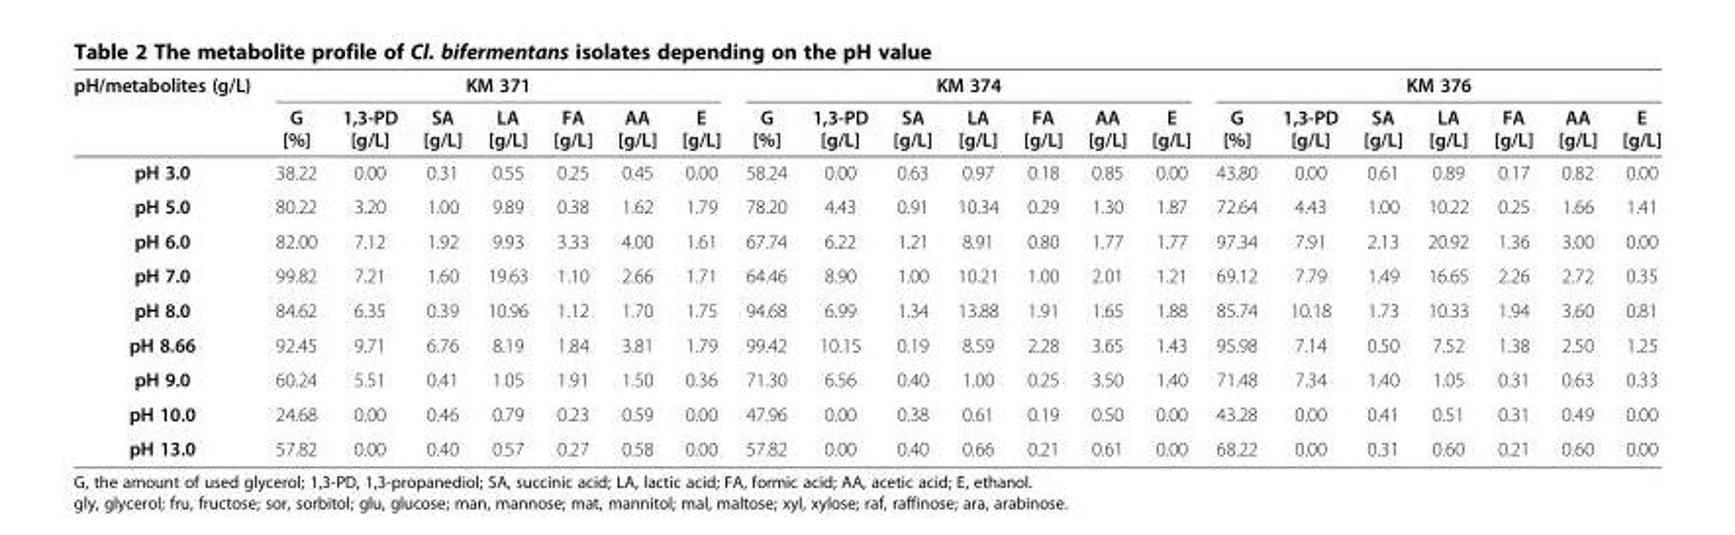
<table><thead><tr><td rowspan="2">pH/metabolites (g/L)</td><td colspan="7">KM 371</td><td colspan="7">KM 374</td><td colspan="7">KM 376</td></tr><tr><td>G [%]</td><td>1,3-PD [g/L]</td><td>SA [g/L]</td><td>LA [g/L]</td><td>FA [g/L]</td><td>AA [g/L]</td><td>E [g/L]</td><td>G [%]</td><td>1,3-PD [g/L]</td><td>SA [g/L]</td><td>LA [g/L]</td><td>FA [g/L]</td><td>AA [g/L]</td><td>E [g/L]</td><td>G [%]</td><td>1,3-PD [g/L]</td><td>SA [g/L]</td><td>LA [g/L]</td><td>FA [g/L]</td><td>AA [g/L]</td><td>E [g/L]</td></tr></thead><tbody><tr><td>pH 3.0</td><td>38.22</td><td>0.00</td><td>0.31</td><td>0.55</td><td>0.25</td><td>0.45</td><td>0.00</td><td>58.24</td><td>0.00</td><td>0.63</td><td>0.97</td><td>0.18</td><td>0.85</td><td>0.00</td><td>43.80</td><td>0.00</td><td>0.61</td><td>0.89</td><td>0.17</td><td>0.82</td><td>0.00</td></tr><tr><td>pH 5.0</td><td>80.22</td><td>3.20</td><td>1.00</td><td>9.89</td><td>0.38</td><td>1.62</td><td>1.79</td><td>78.20</td><td>4.43</td><td>0.91</td><td>10.34</td><td>0.29</td><td>1.30</td><td>1.87</td><td>72.64</td><td>4.43</td><td>1.00</td><td>10.22</td><td>0.25</td><td>1.66</td><td>1.41</td></tr><tr><td>pH 6.0</td><td>82.00</td><td>7.12</td><td>1.92</td><td>9.93</td><td>3.33</td><td>4.00</td><td>1.61</td><td>67.74</td><td>6.22</td><td>1.21</td><td>8.91</td><td>0.80</td><td>1.77</td><td>1.77</td><td>97.34</td><td>7.91</td><td>2.13</td><td>20.92</td><td>1.36</td><td>3.00</td><td>0.00</td></tr><tr><td>pH 7.0</td><td>99.82</td><td>7.21</td><td>1.60</td><td>19.63</td><td>1.10</td><td>2.66</td><td>1.71</td><td>64.46</td><td>8.90</td><td>1.00</td><td>10.21</td><td>1.00</td><td>2.01</td><td>1.21</td><td>69.12</td><td>7.79</td><td>1.49</td><td>16.65</td><td>2.26</td><td>2.72</td><td>0.35</td></tr><tr><td>pH 8.0</td><td>84.62</td><td>6.35</td><td>0.39</td><td>10.96</td><td>1.12</td><td>1.70</td><td>1.75</td><td>94.68</td><td>6.99</td><td>1.34</td><td>13.88</td><td>1.91</td><td>1.65</td><td>1.88</td><td>85.74</td><td>10.18</td><td>1.73</td><td>10.33</td><td>1.94</td><td>3.60</td><td>0.81</td></tr><tr><td>pH 8.66</td><td>92.45</td><td>9.71</td><td>6.76</td><td>8.19</td><td>1.84</td><td>3.81</td><td>1.79</td><td>99.42</td><td>10.15</td><td>0.19</td><td>8.59</td><td>2.28</td><td>3.65</td><td>1.43</td><td>95.98</td><td>7.14</td><td>0.50</td><td>7.52</td><td>1.38</td><td>2.50</td><td>1.25</td></tr><tr><td>pH 9.0</td><td>60.24</td><td>5.51</td><td>0.41</td><td>1.05</td><td>1.91</td><td>1.50</td><td>0.36</td><td>71.30</td><td>6.56</td><td>0.40</td><td>1.00</td><td>0.25</td><td>3.50</td><td>1.40</td><td>71.48</td><td>7.34</td><td>1.40</td><td>1.05</td><td>0.31</td><td>0.63</td><td>0.33</td></tr><tr><td>pH 10.0</td><td>24.68</td><td>0.00</td><td>0.46</td><td>0.79</td><td>0.23</td><td>0.59</td><td>0.00</td><td>47.96</td><td>0.00</td><td>0.38</td><td>0.61</td><td>0.19</td><td>0.50</td><td>0.00</td><td>43.28</td><td>0.00</td><td>0.41</td><td>0.51</td><td>0.31</td><td>0.49</td><td>0.00</td></tr><tr><td>pH 13.0</td><td>57.82</td><td>0.00</td><td>0.40</td><td>0.57</td><td>0.27</td><td>0.58</td><td>0.00</td><td>57.82</td><td>0.00</td><td>0.40</td><td>0.66</td><td>0.21</td><td>0.61</td><td>0.00</td><td>68.22</td><td>0.00</td><td>0.31</td><td>0.60</td><td>0.21</td><td>0.60</td><td>0.00</td></tr></tbody></table>